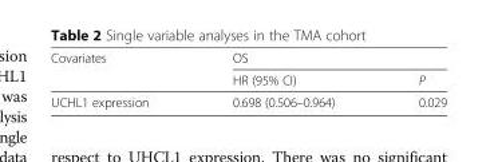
<table><thead><tr><td rowspan="2">Covariates</td><td colspan="2">OS</td></tr><tr><td>HR (95% CI)</td><td>P</td></tr></thead><tbody><tr><td>UCHL1 expression</td><td>0.698 (0.506–0.964)</td><td>0.029</td></tr></tbody></table>